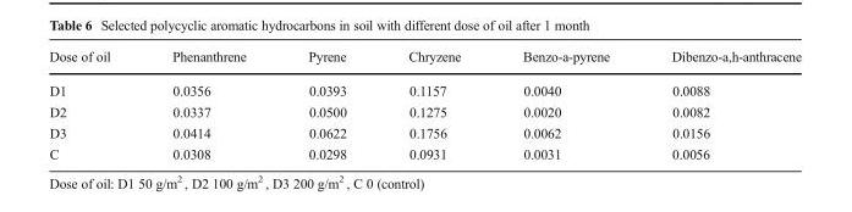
<table><thead><tr><td>Dose of oil</td><td>Phenanthrene</td><td>Pyrene</td><td>Chryzene</td><td>Benzo-a-pyrene</td><td>Dibenzo-a,h-anthracene</td></tr></thead><tbody><tr><td>D1</td><td>0.0356</td><td>0.0393</td><td>0.1157</td><td>0.0040</td><td>0.0088</td></tr><tr><td>D2</td><td>0.0337</td><td>0.0500</td><td>0.1275</td><td>0.0020</td><td>0.0082</td></tr><tr><td>D3</td><td>0.0414</td><td>0.0622</td><td>0.1756</td><td>0.0062</td><td>0.0156</td></tr><tr><td>C</td><td>0.0308</td><td>0.0298</td><td>0.0931</td><td>0.0031</td><td>0.0056</td></tr></tbody></table>